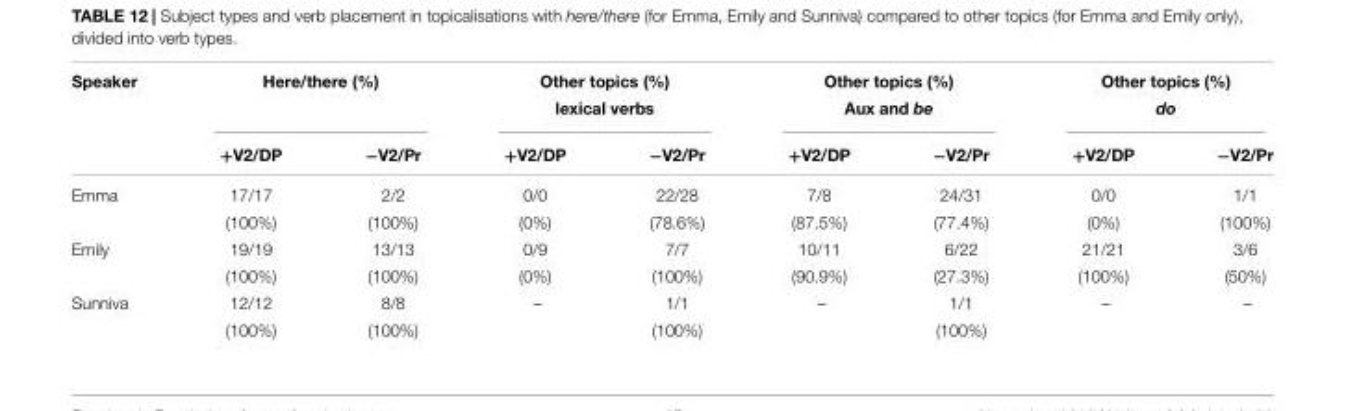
<table><thead><tr><td rowspan="3">Speaker</td><td colspan="2">Here/there (%)</td><td rowspan="2" colspan="2">Other topics (%) lexical verbs</td><td rowspan="2" colspan="2">Other topics (%) Aux and be</td><td rowspan="2" colspan="2">Other topics (%) do</td></tr><tr><td rowspan="2">+V2/DP</td><td rowspan="2">−V2/Pr</td></tr><tr><td>+V2/DP</td><td>−V2/Pr</td><td>+V2/DP</td><td>−V2/Pr</td><td>+V2/DP</td><td>−V2/Pr</td></tr></thead><tbody><tr><td rowspan="2">Emma</td><td>17/17</td><td>2/2</td><td>0/0</td><td>22/28</td><td>7/8</td><td>24/31</td><td>0/0</td><td>1/1</td></tr><tr><td>(100%)</td><td>(100%)</td><td>(0%)</td><td>(78.6%)</td><td>(87.5%)</td><td>(77.4%)</td><td>(0%)</td><td>(100%)</td></tr><tr><td rowspan="2">Emily</td><td>19/19</td><td>13/13</td><td>0/9</td><td>7/7</td><td>10/11</td><td>6/22</td><td>21/21</td><td>3/6</td></tr><tr><td>(100%)</td><td>(100%)</td><td>(0%)</td><td>(100%)</td><td>(90.9%)</td><td>(27.3%)</td><td>(100%)</td><td>(50%)</td></tr><tr><td rowspan="2">Sunniva</td><td>12/12</td><td>8/8</td><td>–</td><td>1/1</td><td>–</td><td>1/1</td><td>–</td><td>–</td></tr><tr><td>(100%)</td><td>(100%)</td><td></td><td>(100%)</td><td></td><td>(100%)</td><td></td><td></td></tr></tbody></table>